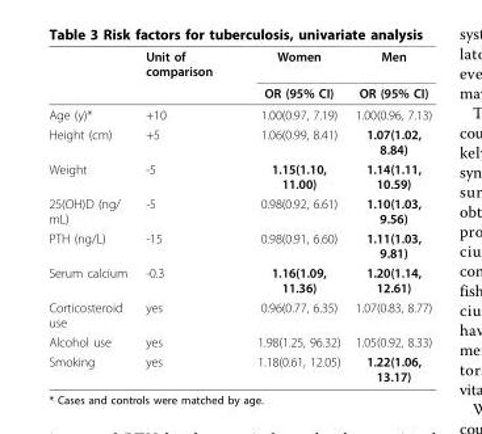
<table><thead><tr><td rowspan="2"></td><td rowspan="2">Unit of comparison</td><td rowspan="2">Women OR (95% CI)</td><td rowspan="2">Men OR (95% CI)</td></tr><tr></tr></thead><tbody><tr><td>Age (y)*</td><td>+10</td><td>1.00(0.97, 7.19)</td><td>1.00(0.96, 7.13)</td></tr><tr><td>Height (cm)</td><td>+5</td><td>1.06(0.99, 8.41)</td><td>1.07(1.02, 8.84)</td></tr><tr><td>Weight</td><td>-5</td><td>1.15(1.10, 11.00)</td><td>1.14(1.11, 10.59)</td></tr><tr><td>25(OH)D (ng/ mL)</td><td>-5</td><td>0.98(0.92, 6.61)</td><td>1.10(1.03, 9.56)</td></tr><tr><td>PTH (ng/L)</td><td>-15</td><td>0.98(0.91, 6.60)</td><td>1.11(1.03, 9.81)</td></tr><tr><td>Serum calcium</td><td>-0.3</td><td>1.16(1.09, 11.36)</td><td>1.20(1.14, 12.61)</td></tr><tr><td>Corticosteroid use</td><td>yes</td><td>0.96(0.77, 6.35)</td><td>1.07(0.83, 8.77)</td></tr><tr><td>Alcohol use</td><td>yes</td><td>1.98(1.25, 96.32)</td><td>1.05(0.92, 8.33)</td></tr><tr><td>Smoking</td><td>yes</td><td>1.18(0.61, 12.05)</td><td>1.22(1.06, 13.17)</td></tr></tbody></table>